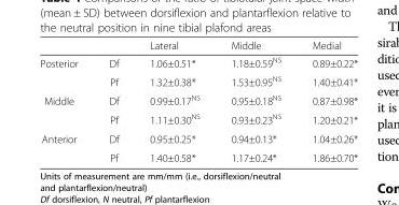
<table><thead><tr><td></td><td></td><td>Lateral</td><td>Middle</td><td>Medial</td></tr></thead><tbody><tr><td rowspan="2">Posterior</td><td>Df</td><td>1.06±0.51*</td><td>1.18±0.59<sup>NS</sup></td><td>0.89±0.22*</td></tr><tr><td>Pf</td><td>1.32±0.38*</td><td>1.53±0.95<sup>NS</sup></td><td>1.40±0.41*</td></tr><tr><td rowspan="2">Middle</td><td>Df</td><td>0.99±0.17<sup>NS</sup></td><td>0.95±0.18<sup>NS</sup></td><td>0.87±0.98*</td></tr><tr><td>Pf</td><td>1.11±0.30<sup>NS</sup></td><td>0.93±0.23<sup>NS</sup></td><td>1.20±0.21*</td></tr><tr><td rowspan="2">Anterior</td><td>Df</td><td>0.95±0.25*</td><td>0.94±0.13*</td><td>1.04±0.26*</td></tr><tr><td>Pf</td><td>1.40±0.58*</td><td>1.17±0.24*</td><td>1.86±0.70*</td></tr></tbody></table>